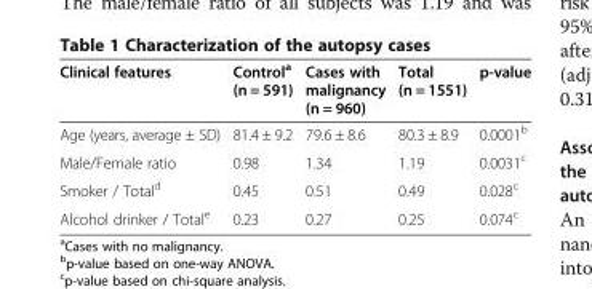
<table><thead><tr><td>Clinical features</td><td>Control<sup>a</sup> (n = 591)</td><td>Cases with malignancy (n = 960)</td><td>Total (n = 1551)</td><td>p-value</td></tr></thead><tbody><tr><td>Age (years, average ± SD)</td><td>81.4 ± 9.2</td><td>79.6 ± 8.6</td><td>80.3 ± 8.9</td><td>0.0001<sup>b</sup></td></tr><tr><td>Male/Female ratio</td><td>0.98</td><td>1.34</td><td>1.19</td><td>0.0031<sup>c</sup></td></tr><tr><td>Smoker / Total<sup>d</sup></td><td>0.45</td><td>0.51</td><td>0.49</td><td>0.028<sup>c</sup></td></tr><tr><td>Alcohol drinker / Total<sup>e</sup></td><td>0.23</td><td>0.27</td><td>0.25</td><td>0.074<sup>c</sup></td></tr></tbody></table>